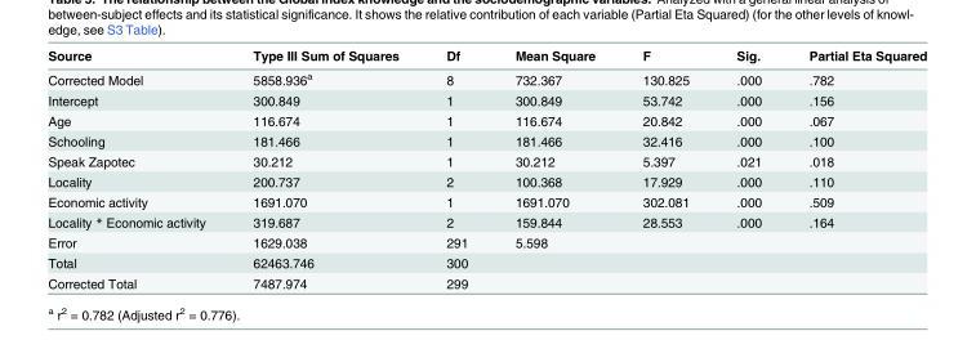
<table><thead><tr><td>Source</td><td>Type III Sum of Squares</td><td>Df</td><td>Mean Square</td><td>F</td><td>Sig.</td><td>Partial Eta Squared</td></tr></thead><tbody><tr><td>Corrected Model</td><td>5858.936<sup>a</sup></td><td>8</td><td>732.367</td><td>130.825</td><td>.000</td><td>.782</td></tr><tr><td>Intercept</td><td>300.849</td><td>1</td><td>300.849</td><td>53.742</td><td>.000</td><td>.156</td></tr><tr><td>Age</td><td>116.674</td><td>1</td><td>116.674</td><td>20.842</td><td>.000</td><td>.067</td></tr><tr><td>Schooling</td><td>181.466</td><td>1</td><td>181.466</td><td>32.416</td><td>.000</td><td>.100</td></tr><tr><td>Speak Zapotec</td><td>30.212</td><td>1</td><td>30.212</td><td>5.397</td><td>.021</td><td>.018</td></tr><tr><td>Locality</td><td>200.737</td><td>2</td><td>100.368</td><td>17.929</td><td>.000</td><td>.110</td></tr><tr><td>Economic activity</td><td>1691.070</td><td>1</td><td>1691.070</td><td>302.081</td><td>.000</td><td>.509</td></tr><tr><td>Locality * Economic activity</td><td>319.687</td><td>2</td><td>159.844</td><td>28.553</td><td>.000</td><td>.164</td></tr><tr><td>Error</td><td>1629.038</td><td>291</td><td>5.598</td><td></td><td></td><td></td></tr><tr><td>Total</td><td>62463.746</td><td>300</td><td></td><td></td><td></td><td></td></tr><tr><td>Corrected Total</td><td>7487.974</td><td>299</td><td></td><td></td><td></td><td></td></tr></tbody></table>